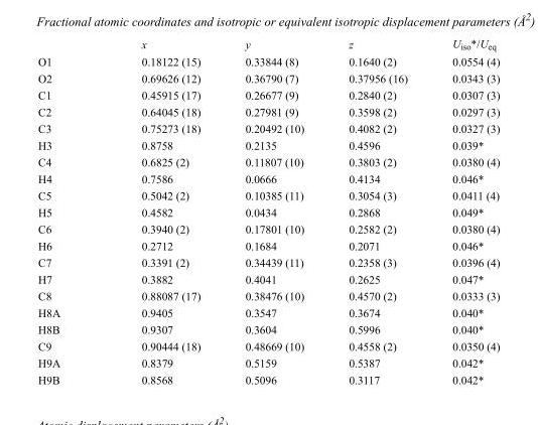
<table><thead><tr><td></td><td>x</td><td>y</td><td>z</td><td>U<sub>iso</sub>*/U<sub>eq</sub></td></tr></thead><tbody><tr><td>O1</td><td>0.18122 (15)</td><td>0.33844 (8)</td><td>0.1640 (2)</td><td>0.0554 (4)</td></tr><tr><td>O2</td><td>0.69626 (12)</td><td>0.36790 (7)</td><td>0.37956 (16)</td><td>0.0343 (3)</td></tr><tr><td>C1</td><td>0.45915 (17)</td><td>0.26677 (9)</td><td>0.2840 (2)</td><td>0.0307 (3)</td></tr><tr><td>C2</td><td>0.64045 (18)</td><td>0.27981 (9)</td><td>0.3598 (2)</td><td>0.0297 (3)</td></tr><tr><td>C3</td><td>0.75273 (18)</td><td>0.20492 (10)</td><td>0.4082 (2)</td><td>0.0327 (3)</td></tr><tr><td>H3</td><td>0.8758</td><td>0.2135</td><td>0.4596</td><td>0.039*</td></tr><tr><td>C4</td><td>0.6825 (2)</td><td>0.11807 (10)</td><td>0.3803 (2)</td><td>0.0380 (4)</td></tr><tr><td>H4</td><td>0.7586</td><td>0.0666</td><td>0.4134</td><td>0.046*</td></tr><tr><td>C5</td><td>0.5042 (2)</td><td>0.10385 (11)</td><td>0.3054 (3)</td><td>0.0411 (4)</td></tr><tr><td>H5</td><td>0.4582</td><td>0.0434</td><td>0.2868</td><td>0.049*</td></tr><tr><td>C6</td><td>0.3940 (2)</td><td>0.17801 (10)</td><td>0.2582 (2)</td><td>0.0380 (4)</td></tr><tr><td>H6</td><td>0.2712</td><td>0.1684</td><td>0.2071</td><td>0.046*</td></tr><tr><td>C7</td><td>0.3391 (2)</td><td>0.34439 (11)</td><td>0.2358 (3)</td><td>0.0396 (4)</td></tr><tr><td>H7</td><td>0.3882</td><td>0.4041</td><td>0.2625</td><td>0.047*</td></tr><tr><td>C8</td><td>0.88087 (17)</td><td>0.38476 (10)</td><td>0.4570 (2)</td><td>0.0333 (3)</td></tr><tr><td>H8A</td><td>0.9405</td><td>0.3547</td><td>0.3674</td><td>0.040*</td></tr><tr><td>H8B</td><td>0.9307</td><td>0.3604</td><td>0.5996</td><td>0.040*</td></tr><tr><td>C9</td><td>0.90444 (18)</td><td>0.48669 (10)</td><td>0.4558 (2)</td><td>0.0350 (4)</td></tr><tr><td>H9A</td><td>0.8379</td><td>0.5159</td><td>0.5387</td><td>0.042*</td></tr><tr><td>H9B</td><td>0.8568</td><td>0.5096</td><td>0.3117</td><td>0.042*</td></tr></tbody></table>